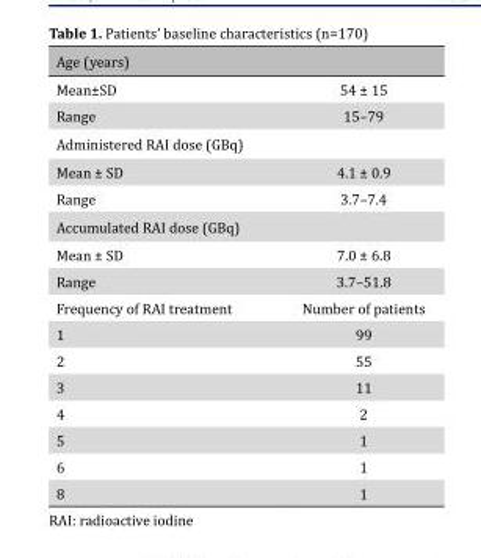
<table><thead><tr><td>Age (years)</td><td></td></tr></thead><tbody><tr><td>Mean±SD</td><td>54 ± 15</td></tr><tr><td>Range</td><td>15–79</td></tr><tr><td colspan="2">Administered RAI dose (GBq)</td></tr><tr><td>Mean ± SD</td><td>4.1 ± 0.9</td></tr><tr><td>Range</td><td>3.7–7.4</td></tr><tr><td colspan="2">Accumulated RAI dose (GBq)</td></tr><tr><td>Mean ± SD</td><td>7.0 ± 6.8</td></tr><tr><td>Range</td><td>3.7–51.8</td></tr><tr><td>Frequency of RAI treatment</td><td>Number of patients</td></tr><tr><td>1</td><td>99</td></tr><tr><td>2</td><td>55</td></tr><tr><td>3</td><td>11</td></tr><tr><td>4</td><td>2</td></tr><tr><td>5</td><td>1</td></tr><tr><td>6</td><td>1</td></tr><tr><td>8</td><td>1</td></tr></tbody></table>